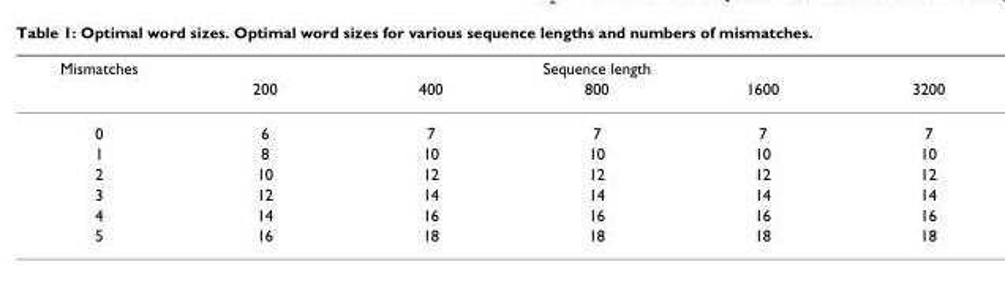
<table><thead><tr><td rowspan="2">Mismatches</td><td colspan="5">Sequence length</td></tr><tr><td>200</td><td>400</td><td>800</td><td>1600</td><td>3200</td></tr></thead><tbody><tr><td>0</td><td>6</td><td>7</td><td>7</td><td>7</td><td>7</td></tr><tr><td>1</td><td>8</td><td>10</td><td>10</td><td>10</td><td>10</td></tr><tr><td>2</td><td>10</td><td>12</td><td>12</td><td>12</td><td>12</td></tr><tr><td>3</td><td>12</td><td>14</td><td>14</td><td>14</td><td>14</td></tr><tr><td>4</td><td>14</td><td>16</td><td>16</td><td>16</td><td>16</td></tr><tr><td>5</td><td>16</td><td>18</td><td>18</td><td>18</td><td>18</td></tr></tbody></table>